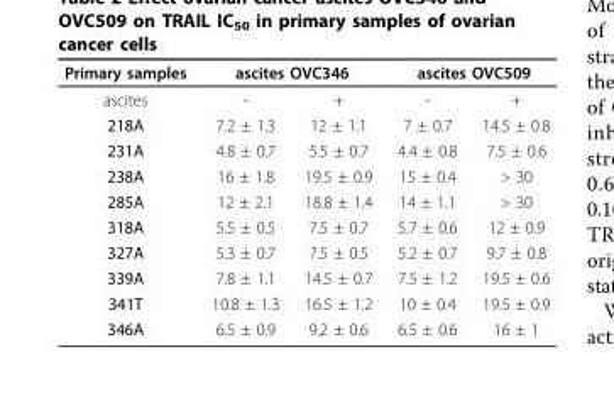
<table><thead><tr><td rowspan="2">Primary samples ascites</td><td colspan="2">ascites OVC346</td><td colspan="2">ascites OVC509</td></tr><tr><td>-</td><td>+</td><td>-</td><td>+</td></tr></thead><tbody><tr><td>218A</td><td>7.2 ± 1.3</td><td>12 ± 1.1</td><td>7 ± 0.7</td><td>14.5 ± 0.8</td></tr><tr><td>231A</td><td>4.8 ± 0.7</td><td>5.5 ± 0.7</td><td>4.4 ± 0.8</td><td>7.5 ± 0.6</td></tr><tr><td>238A</td><td>16 ± 1.8</td><td>19.5 ± 0.9</td><td>15 ± 0.4</td><td>&gt; 30</td></tr><tr><td>285A</td><td>12 ± 2.1</td><td>18.8 ± 1.4</td><td>14 ± 1.1</td><td>&gt; 30</td></tr><tr><td>318A</td><td>5.5 ± 0.5</td><td>7.5 ± 0.7</td><td>5.7 ± 0.6</td><td>12 ± 0.9</td></tr><tr><td>327A</td><td>5.3 ± 0.7</td><td>7.5 ± 0.5</td><td>5.2 ± 0.7</td><td>9.7 ± 0.8</td></tr><tr><td>339A</td><td>7.8 ± 1.1</td><td>14.5 ± 0.7</td><td>7.5 ± 1.2</td><td>19.5 ± 0.6</td></tr><tr><td>341T</td><td>10.8 ± 1.3</td><td>16.5 ± 1.2</td><td>10 ± 0.4</td><td>19.5 ± 0.9</td></tr><tr><td>346A</td><td>6.5 ± 0.9</td><td>9.2 ± 0.6</td><td>6.5 ± 0.6</td><td>16 ± 1</td></tr></tbody></table>